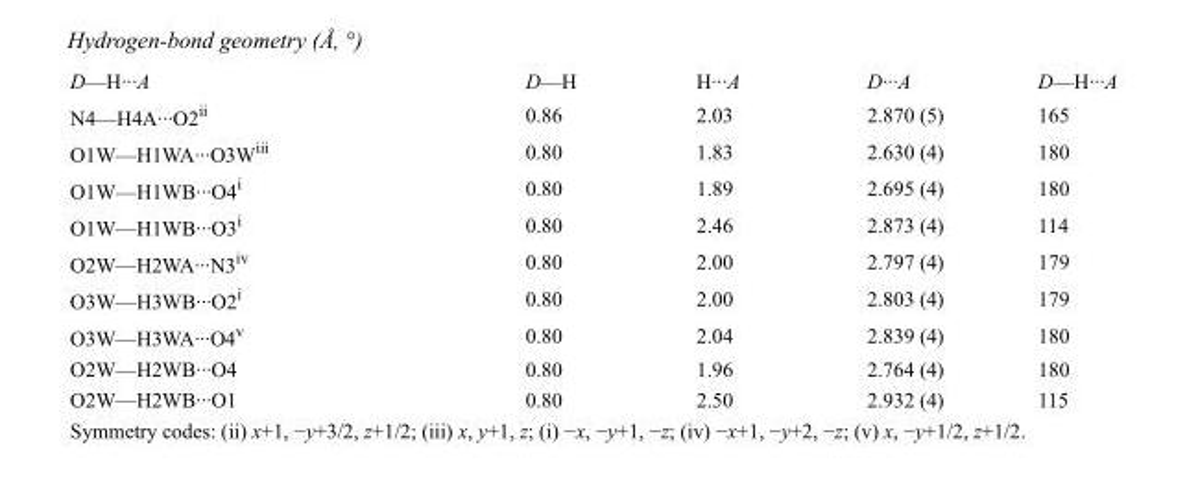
<table><tbody><tr><td>D—H···A</td><td>D—H</td><td>H···A</td><td>D···A</td><td>D—H···A</td></tr><tr><td>N4—H4A···O2<sup>ii</sup></td><td>0.86</td><td>2.03</td><td>2.870 (5)</td><td>165</td></tr><tr><td>O1W—H1WA···O3W<sup>iii</sup></td><td>0.80</td><td>1.83</td><td>2.630 (4)</td><td>180</td></tr><tr><td>O1W—H1WB···O4<sup>i</sup></td><td>0.80</td><td>1.89</td><td>2.695 (4)</td><td>180</td></tr><tr><td>O1W—H1WB···O3<sup>i</sup></td><td>0.80</td><td>2.46</td><td>2.873 (4)</td><td>114</td></tr><tr><td>O2W—H2WA···N3<sup>iv</sup></td><td>0.80</td><td>2.00</td><td>2.797 (4)</td><td>179</td></tr><tr><td>O3W—H3WB···O2<sup>i</sup></td><td>0.80</td><td>2.00</td><td>2.803 (4)</td><td>179</td></tr><tr><td>O3W—H3WA···O4<sup>v</sup></td><td>0.80</td><td>2.04</td><td>2.839 (4)</td><td>180</td></tr><tr><td>O2W—H2WB···O4</td><td>0.80</td><td>1.96</td><td>2.764 (4)</td><td>180</td></tr><tr><td>O2W—H2WB···O1</td><td>0.80</td><td>2.50</td><td>2.932 (4)</td><td>115</td></tr></tbody></table>